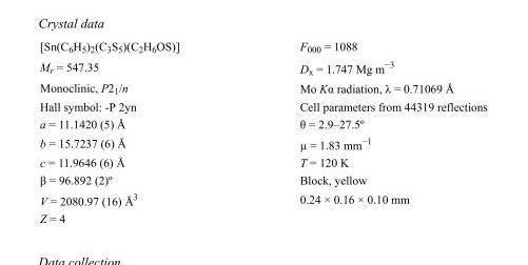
<table><tbody><tr><td>[Sn(C<sub>6</sub>H<sub>5</sub>)<sub>2</sub>(C<sub>3</sub>S<sub>5</sub>)(C<sub>2</sub>H<sub>6</sub>OS)]</td><td>F000 = 1088</td></tr><tr><td>M<sub>r</sub> = 547.35</td><td>D<sub>x</sub> = 1.747 Mg m<sup>−3</sup></td></tr><tr><td>Monoclinic, P2<sub>1</sub>/n</td><td>Mo Kα radiation, λ = 0.71069 Å</td></tr><tr><td>Hall symbol: -P 2yn</td><td>Cell parameters from 44319 reflections</td></tr><tr><td>a = 11.1420 (5) Å</td><td>θ = 2.9–27.5º</td></tr><tr><td>b = 15.7237 (6) Å</td><td>µ = 1.83 mm<sup>−1</sup></td></tr><tr><td>c = 11.9646 (6) Å</td><td>T = 120 K</td></tr><tr><td>β = 96.892 (2)º</td><td>Block, yellow</td></tr><tr><td>V = 2080.97 (16) Å<sup>3</sup></td><td>0.24 × 0.16 × 0.10 mm</td></tr><tr><td>Z = 4</td><td></td></tr></tbody></table>